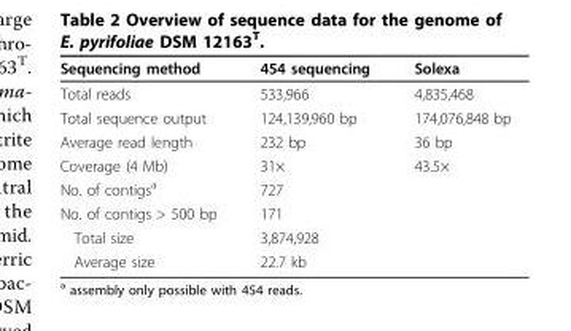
<table><thead><tr><td>Sequencing method</td><td>454 sequencing</td><td>Solexa</td></tr></thead><tbody><tr><td>Total reads</td><td>533,966</td><td>4,835,468</td></tr><tr><td>Total sequence output</td><td>124,139,960 bp</td><td>174,076,848 bp</td></tr><tr><td>Average read length</td><td>232 bp</td><td>36 bp</td></tr><tr><td>Coverage (4 Mb)</td><td>31×</td><td>43.5×</td></tr><tr><td>No. of contigs<sup>a</sup></td><td>727</td><td></td></tr><tr><td>No. of contigs &gt; 500 bp</td><td>171</td><td></td></tr><tr><td>Total size</td><td>3,874,928</td><td></td></tr><tr><td>Average size</td><td>22.7 kb</td><td></td></tr></tbody></table>